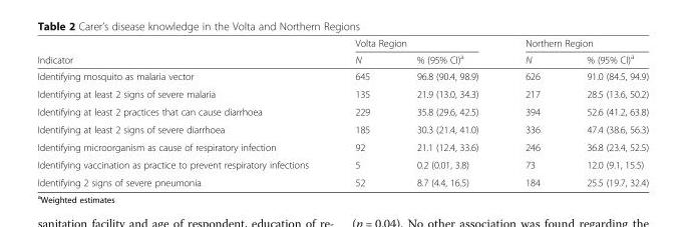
<table><thead><tr><td rowspan="2">Indicator</td><td colspan="2">Volta Region</td><td colspan="2">Northern Region</td></tr><tr><td>N</td><td>% (95% CI)<sup>a</sup></td><td>N</td><td>% (95% CI)<sup>a</sup></td></tr></thead><tbody><tr><td>Identifying mosquito as malaria vector</td><td>645</td><td>96.8 (90.4, 98.9)</td><td>626</td><td>91.0 (84.5, 94.9)</td></tr><tr><td>Identifying at least 2 signs of severe malaria</td><td>135</td><td>21.9 (13.0, 34.3)</td><td>217</td><td>28.5 (13.6, 50.2)</td></tr><tr><td>Identifying at least 2 practices that can cause diarrhoea</td><td>229</td><td>35.8 (29.6, 42.5)</td><td>394</td><td>52.6 (41.2, 63.8)</td></tr><tr><td>Identifying at least 2 signs of severe diarrhoea</td><td>185</td><td>30.3 (21.4, 41.0)</td><td>336</td><td>47.4 (38.6, 56.3)</td></tr><tr><td>Identifying microorganism as cause of respiratory infection</td><td>92</td><td>21.1 (12.4, 33.6)</td><td>246</td><td>36.8 (23.4, 52.5)</td></tr><tr><td>Identifying vaccination as practice to prevent respiratory infections</td><td>5</td><td>0.2 (0.01, 3.8)</td><td>73</td><td>12.0 (9.1, 15.5)</td></tr><tr><td>Identifying 2 signs of severe pneumonia</td><td>52</td><td>8.7 (4.4, 16.5)</td><td>184</td><td>25.5 (19.7, 32.4)</td></tr></tbody></table>